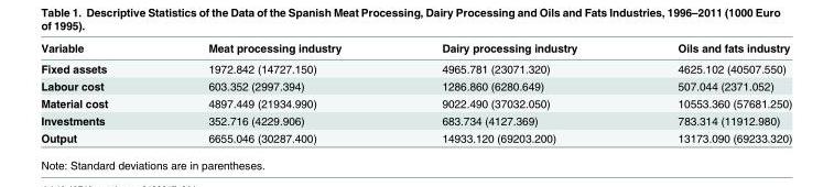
<table><thead><tr><td>Variable</td><td>Meat processing industry</td><td>Dairy processing industry</td><td>Oils and fats industry</td></tr></thead><tbody><tr><td>Fixed assets</td><td>1972.842 (14727.150)</td><td>4965.781 (23071.320)</td><td>4625.102 (40507.550)</td></tr><tr><td>Labour cost</td><td>603.352 (2997.394)</td><td>1286.860 (6280.649)</td><td>507.044 (2371.052)</td></tr><tr><td>Material cost</td><td>4897.449 (21934.990)</td><td>9022.490 (37032.050)</td><td>10553.360 (57681.250)</td></tr><tr><td>Investments</td><td>352.716 (4229.906)</td><td>683.734 (4127.369)</td><td>783.314 (11912.980)</td></tr><tr><td>Output</td><td>6655.046 (30287.400)</td><td>14933.120 (69203.200)</td><td>13173.090 (69233.320)</td></tr></tbody></table>